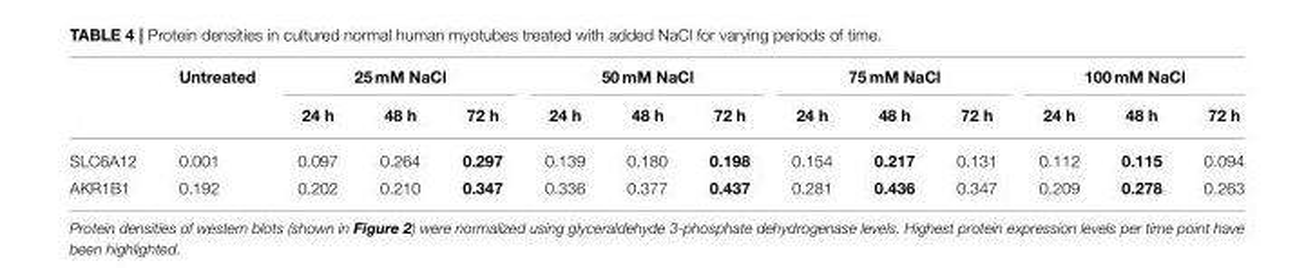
<table><thead><tr><td rowspan="2"></td><td rowspan="2">Untreated</td><td colspan="3">25 mM NaCl</td><td colspan="3">50 mM NaCl</td><td colspan="3">75 mM NaCl</td><td colspan="3">100 mM NaCl</td></tr><tr><td>24 h</td><td>48 h</td><td>72 h</td><td>24 h</td><td>48 h</td><td>72 h</td><td>24 h</td><td>48 h</td><td>72 h</td><td>24 h</td><td>48 h</td><td>72 h</td></tr></thead><tbody><tr><td>SLC6A12</td><td>0.001</td><td>0.097</td><td>0.264</td><td>0.297</td><td>0.139</td><td>0.180</td><td>0.198</td><td>0.154</td><td>0.217</td><td>0.131</td><td>0.112</td><td>0.115</td><td>0.094</td></tr><tr><td>AKR1B1</td><td>0.192</td><td>0.202</td><td>0.210</td><td>0.347</td><td>0.336</td><td>0.377</td><td>0.437</td><td>0.281</td><td>0.436</td><td>0.347</td><td>0.209</td><td>0.278</td><td>0.263</td></tr></tbody></table>